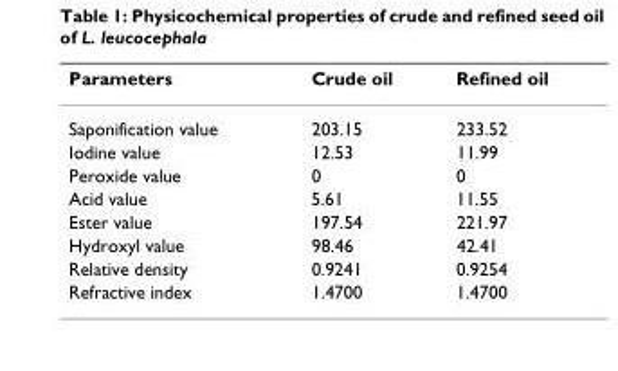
<table><thead><tr><td>Parameters</td><td>Crude oil</td><td>Refined oil</td></tr></thead><tbody><tr><td>Saponification value</td><td>203.15</td><td>233.52</td></tr><tr><td>Iodine value</td><td>12.53</td><td>11.99</td></tr><tr><td>Peroxide value</td><td>0</td><td>0</td></tr><tr><td>Acid value</td><td>5.61</td><td>11.55</td></tr><tr><td>Ester value</td><td>197.54</td><td>221.97</td></tr><tr><td>Hydroxyl value</td><td>98.46</td><td>42.41</td></tr><tr><td>Relative density</td><td>0.9241</td><td>0.9254</td></tr><tr><td>Refractive index</td><td>1.4700</td><td>1.4700</td></tr></tbody></table>